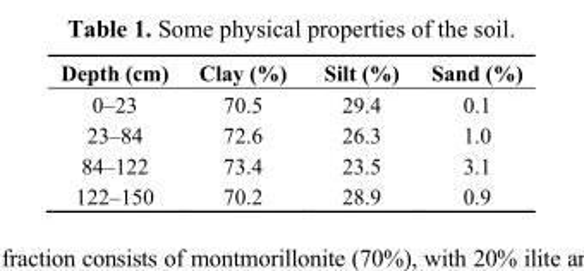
<table><thead><tr><td>Depth (cm)</td><td>Clay (%)</td><td>Silt (%)</td><td>Sand (%)</td></tr></thead><tbody><tr><td>0–23</td><td>70.5</td><td>29.4</td><td>0.1</td></tr><tr><td>23–84</td><td>72.6</td><td>26.3</td><td>1.0</td></tr><tr><td>84–122</td><td>73.4</td><td>23.5</td><td>3.1</td></tr><tr><td>122–150</td><td>70.2</td><td>28.9</td><td>0.9</td></tr></tbody></table>